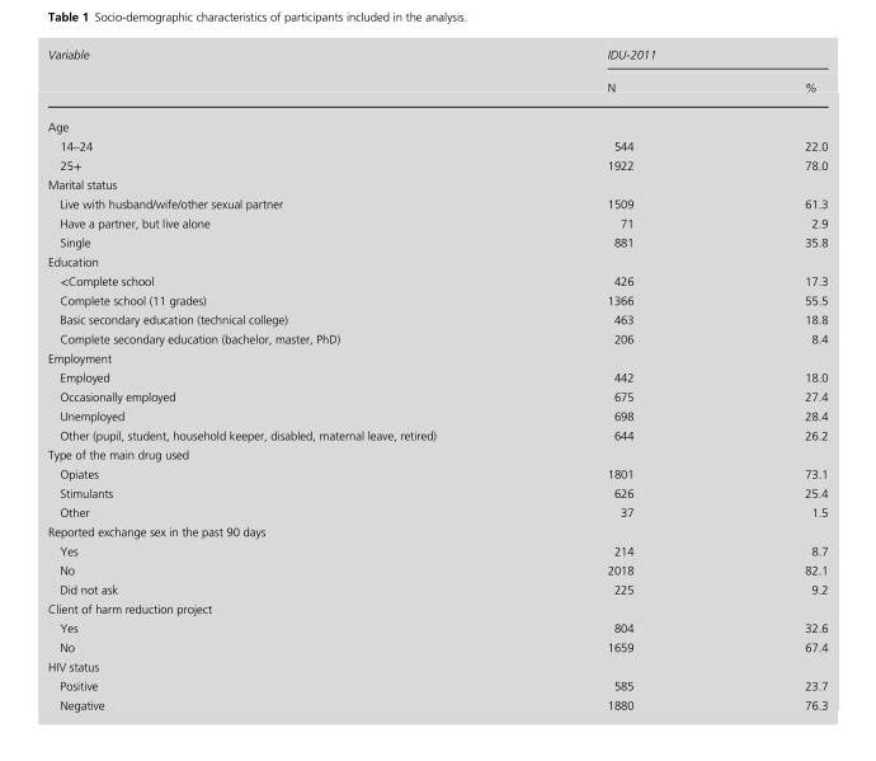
<table><thead><tr><td rowspan="2">Variable</td><td colspan="2">IDU-2011</td></tr><tr><td>N</td><td>%</td></tr></thead><tbody><tr><td colspan="3">Age</td></tr><tr><td>14–24</td><td>544</td><td>22.0</td></tr><tr><td>25+</td><td>1922</td><td>78.0</td></tr><tr><td colspan="3">Marital status</td></tr><tr><td>Live with husband/wife/other sexual partner</td><td>1509</td><td>61.3</td></tr><tr><td>Have a partner, but live alone</td><td>71</td><td>2.9</td></tr><tr><td>Single</td><td>881</td><td>35.8</td></tr><tr><td colspan="3">Education</td></tr><tr><td>&lt;Complete school</td><td>426</td><td>17.3</td></tr><tr><td>Complete school (11 grades)</td><td>1366</td><td>55.5</td></tr><tr><td>Basic secondary education (technical college)</td><td>463</td><td>18.8</td></tr><tr><td>Complete secondary education (bachelor, master, PhD)</td><td>206</td><td>8.4</td></tr><tr><td colspan="3">Employment</td></tr><tr><td>Employed</td><td>442</td><td>18.0</td></tr><tr><td>Occasionally employed</td><td>675</td><td>27.4</td></tr><tr><td>Unemployed</td><td>698</td><td>28.4</td></tr><tr><td>Other (pupil, student, household keeper, disabled, maternal leave, retired)</td><td>644</td><td>26.2</td></tr><tr><td colspan="3">Type of the main drug used</td></tr><tr><td>Opiates</td><td>1801</td><td>73.1</td></tr><tr><td>Stimulants</td><td>626</td><td>25.4</td></tr><tr><td>Other</td><td>37</td><td>1.5</td></tr><tr><td colspan="3">Reported exchange sex in the past 90 days</td></tr><tr><td>Yes</td><td>214</td><td>8.7</td></tr><tr><td>No</td><td>2018</td><td>82.1</td></tr><tr><td>Did not ask</td><td>225</td><td>9.2</td></tr><tr><td colspan="3">Client of harm reduction project</td></tr><tr><td>Yes</td><td>804</td><td>32.6</td></tr><tr><td>No</td><td>1659</td><td>67.4</td></tr><tr><td colspan="3">HIV status</td></tr><tr><td>Positive</td><td>585</td><td>23.7</td></tr><tr><td>Negative</td><td>1880</td><td>76.3</td></tr></tbody></table>